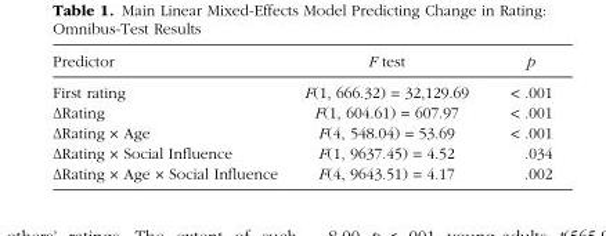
<table><thead><tr><td>Predictor</td><td>F test</td><td>p</td></tr></thead><tbody><tr><td>First rating</td><td>F(1, 666.32) = 32,129.69</td><td>&lt; .001</td></tr><tr><td>ΔRating</td><td>F(1, 604.61) = 607.97</td><td>&lt; .001</td></tr><tr><td>ΔRating × Age</td><td>F(4, 548.04) = 53.69</td><td>&lt; .001</td></tr><tr><td>ΔRating × Social Influence</td><td>F(1, 9637.45) = 4.52</td><td>.034</td></tr><tr><td>ΔRating × Age × Social Influence</td><td>F(4, 9643.51) = 4.17</td><td>.002</td></tr></tbody></table>